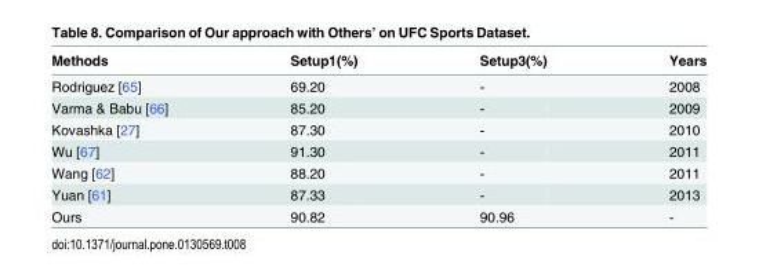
<table><thead><tr><td>Methods</td><td>Setup1(%)</td><td>Setup3(%)</td><td>Years</td></tr></thead><tbody><tr><td>Rodriguez [65]</td><td>69.20</td><td>-</td><td>2008</td></tr><tr><td>Varma &amp; Babu [66]</td><td>85.20</td><td>-</td><td>2009</td></tr><tr><td>Kovashka [27]</td><td>87.30</td><td>-</td><td>2010</td></tr><tr><td>Wu [67]</td><td>91.30</td><td>-</td><td>2011</td></tr><tr><td>Wang [62]</td><td>88.20</td><td>-</td><td>2011</td></tr><tr><td>Yuan [61]</td><td>87.33</td><td>-</td><td>2013</td></tr><tr><td>Ours</td><td>90.82</td><td>90.96</td><td>-</td></tr></tbody></table>